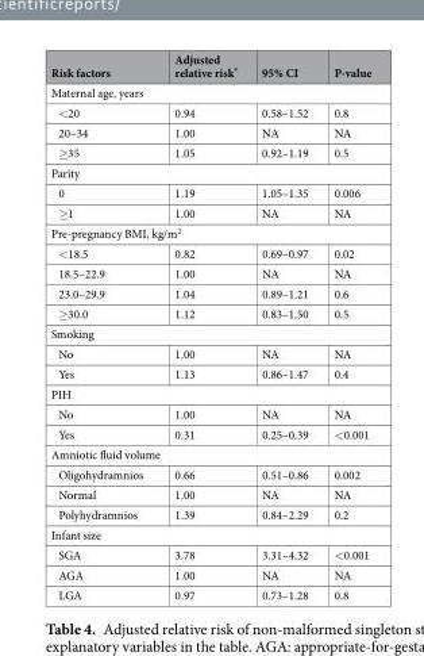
<table><thead><tr><td>Risk factors</td><td>Adjusted relative risk*</td><td>95% CI</td><td>P-value</td></tr></thead><tbody><tr><td colspan="4">Maternal age, years</td></tr><tr><td>&lt;20</td><td>0.94</td><td>0.58–1.52</td><td>0.8</td></tr><tr><td>20–34</td><td>1.00</td><td>NA</td><td>NA</td></tr><tr><td>≥35</td><td>1.05</td><td>0.92–1.19</td><td>0.5</td></tr><tr><td colspan="4">Parity</td></tr><tr><td>0</td><td>1.19</td><td>1.05–1.35</td><td>0.006</td></tr><tr><td>≥1</td><td>1.00</td><td>NA</td><td>NA</td></tr><tr><td colspan="4">Pre-pregnancy BMI, kg/m<sup>2</sup></td></tr><tr><td>&lt;18.5</td><td>0.82</td><td>0.69–0.97</td><td>0.02</td></tr><tr><td>18.5–22.9</td><td>1.00</td><td>NA</td><td>NA</td></tr><tr><td>23.0–29.9</td><td>1.04</td><td>0.89–1.21</td><td>0.6</td></tr><tr><td>≥30.0</td><td>1.12</td><td>0.83–1.50</td><td>0.5</td></tr><tr><td colspan="4">Smoking</td></tr><tr><td>No</td><td>1.00</td><td>NA</td><td>NA</td></tr><tr><td>Yes</td><td>1.13</td><td>0.86–1.47</td><td>0.4</td></tr><tr><td colspan="4">PIH</td></tr><tr><td>No</td><td>1.00</td><td>NA</td><td>NA</td></tr><tr><td>Yes</td><td>0.31</td><td>0.25–0.39</td><td>&lt;0.001</td></tr><tr><td colspan="4">Amniotic fluid volume</td></tr><tr><td>Oligohydramnios</td><td>0.66</td><td>0.51–0.86</td><td>0.002</td></tr><tr><td>Normal</td><td>1.00</td><td>NA</td><td>NA</td></tr><tr><td>Polyhydramnios</td><td>1.39</td><td>0.84–2.29</td><td>0.2</td></tr><tr><td colspan="4">Infant size</td></tr><tr><td>SGA</td><td>3.78</td><td>3.31–4.32</td><td>&lt;0.001</td></tr><tr><td>AGA</td><td>1.00</td><td>NA</td><td>NA</td></tr><tr><td>LGA</td><td>0.97</td><td>0.73–1.28</td><td>0.8</td></tr></tbody></table>